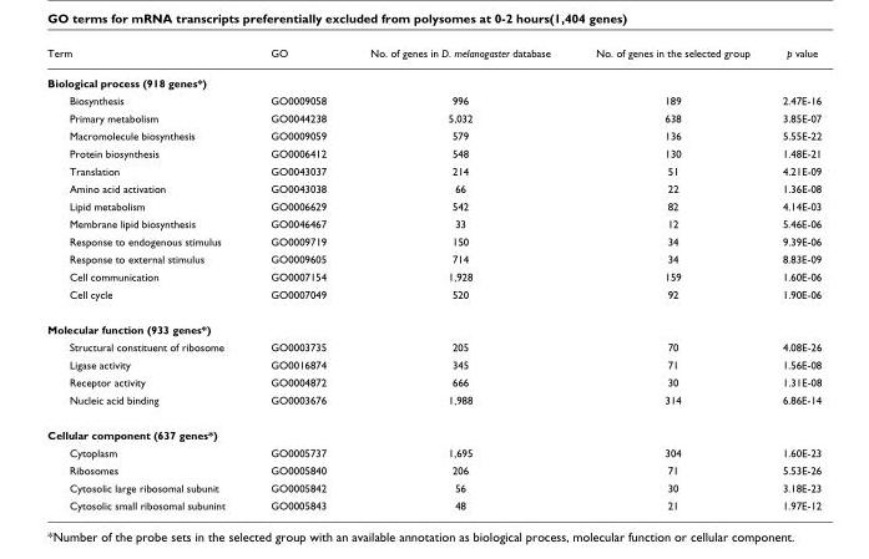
<table><thead><tr><td>Term</td><td>GO</td><td>No. of genes in D. melanogaster database</td><td>No. of genes in the selected group</td><td>p value</td></tr></thead><tbody><tr><td colspan="5">Biological process (918 genes*)</td></tr><tr><td>Biosynthesis</td><td>GO0009058</td><td>996</td><td>189</td><td>2.47E-16</td></tr><tr><td>Primary metabolism</td><td>GO0044238</td><td>5,032</td><td>638</td><td>3.85E-07</td></tr><tr><td>Macromolecule biosynthesis</td><td>GO0009059</td><td>579</td><td>136</td><td>5.55E-22</td></tr><tr><td>Protein biosynthesis</td><td>GO0006412</td><td>548</td><td>130</td><td>1.48E-21</td></tr><tr><td>Translation</td><td>GO0043037</td><td>214</td><td>51</td><td>4.21E-09</td></tr><tr><td>Amino acid activation</td><td>GO0043038</td><td>66</td><td>22</td><td>1.36E-08</td></tr><tr><td>Lipid metabolism</td><td>GO0006629</td><td>542</td><td>82</td><td>4.14E-03</td></tr><tr><td>Membrane lipid biosynthesis</td><td>GO0046467</td><td>33</td><td>12</td><td>5.46E-06</td></tr><tr><td>Response to endogenous stimulus</td><td>GO0009719</td><td>150</td><td>34</td><td>9.39E-06</td></tr><tr><td>Response to external stimulus</td><td>GO0009605</td><td>714</td><td>34</td><td>8.83E-09</td></tr><tr><td>Cell communication</td><td>GO0007154</td><td>1,928</td><td>159</td><td>1.60E-06</td></tr><tr><td>Cell cycle</td><td>GO0007049</td><td>520</td><td>92</td><td>1.90E-06</td></tr><tr><td colspan="5">Molecular function (933 genes*)</td></tr><tr><td>Structural constituent of ribosome</td><td>GO0003735</td><td>205</td><td>70</td><td>4.08E-26</td></tr><tr><td>Ligase activity</td><td>GO0016874</td><td>345</td><td>71</td><td>1.56E-08</td></tr><tr><td>Receptor activity</td><td>GO0004872</td><td>666</td><td>30</td><td>1.31E-08</td></tr><tr><td>Nucleic acid binding</td><td>GO0003676</td><td>1,988</td><td>314</td><td>6.86E-14</td></tr><tr><td colspan="5">Cellular component (637 genes*)</td></tr><tr><td>Cytoplasm</td><td>GO0005737</td><td>1,695</td><td>304</td><td>1.60E-23</td></tr><tr><td>Ribosomes</td><td>GO0005840</td><td>206</td><td>71</td><td>5.53E-26</td></tr><tr><td>Cytosolic large ribosomal subunit</td><td>GO0005842</td><td>56</td><td>30</td><td>3.18E-23</td></tr><tr><td>Cytosolic small ribosomal subunint</td><td>GO0005843</td><td>48</td><td>21</td><td>1.97E-12</td></tr></tbody></table>